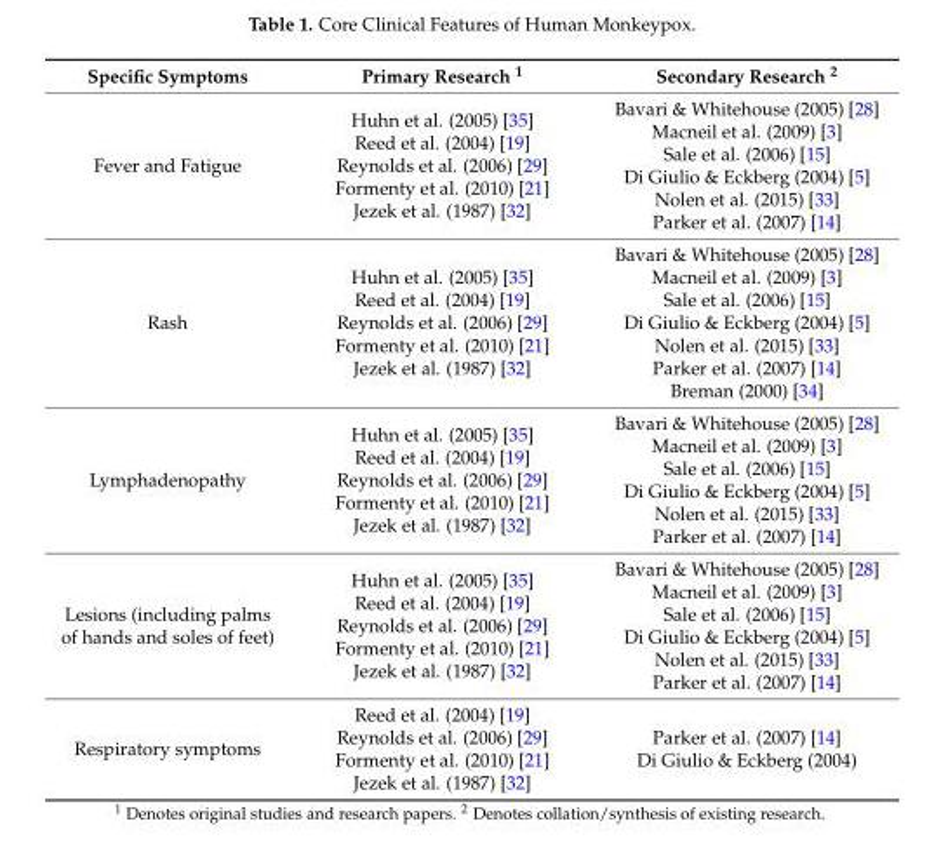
<table><thead><tr><td>Specific Symptoms</td><td>Primary Research <sup>1</sup></td><td>Secondary Research <sup>2</sup></td></tr></thead><tbody><tr><td>Fever and Fatigue</td><td>Huhn et al. (2005) [35] Reed et al. (2004) [19] Reynolds et al. (2006) [29] Formenty et al. (2010) [21] Jezek et al. (1987) [32]</td><td>Bavari &amp; Whitehouse (2005) [28] Macneil et al. (2009) [3] Sale et al. (2006) [15] Di Giulio &amp; Eckberg (2004) [5] Nolen et al. (2015) [33] Parker et al. (2007) [14]</td></tr><tr><td>Rash</td><td>Huhn et al. (2005) [35] Reed et al. (2004) [19] Reynolds et al. (2006) [29] Formenty et al. (2010) [21] Jezek et al. (1987) [32]</td><td>Bavari &amp; Whitehouse (2005) [28] Macneil et al. (2009) [3] Sale et al. (2006) [15] Di Giulio &amp; Eckberg (2004) [5] Nolen et al. (2015) [33] Parker et al. (2007) [14] Breman (2000) [34]</td></tr><tr><td>Lymphadenopathy</td><td>Huhn et al. (2005) [35] Reed et al. (2004) [19] Reynolds et al. (2006) [29] Formenty et al. (2010) [21] Jezek et al. (1987) [32]</td><td>Bavari &amp; Whitehouse (2005) [28] Macneil et al. (2009) [3] Sale et al. (2006) [15] Di Giulio &amp; Eckberg (2004) [5] Nolen et al. (2015) [33] Parker et al. (2007) [14]</td></tr><tr><td>Lesions (including palms of hands and soles of feet)</td><td>Huhn et al. (2005) [35] Reed et al. (2004) [19] Reynolds et al. (2006) [29] Formenty et al. (2010) [21] Jezek et al. (1987) [32]</td><td>Bavari &amp; Whitehouse (2005) [28] Macneil et al. (2009) [3] Sale et al. (2006) [15] Di Giulio &amp; Eckberg (2004) [5] Nolen et al. (2015) [33] Parker et al. (2007) [14]</td></tr><tr><td>Respiratory symptoms</td><td>Reed et al. (2004) [19] Reynolds et al. (2006) [29] Formenty et al. (2010) [21] Jezek et al. (1987) [32]</td><td>Parker et al. (2007) [14] Di Giulio &amp; Eckberg (2004)</td></tr></tbody></table>